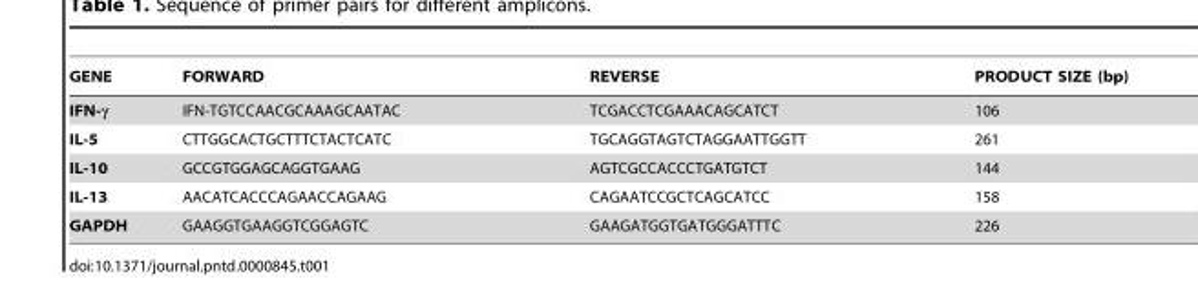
<table><thead><tr><td>GENE</td><td>FORWARD</td><td>REVERSE</td><td>PRODUCT SIZE (bp)</td></tr></thead><tbody><tr><td>IFN-γ</td><td>IFN-TGTCCAACGCAAAGCAATAC</td><td>TCGACCTCGAAACAGCATCT</td><td>106</td></tr><tr><td>IL-5</td><td>CTTGGCACTGCTTTCTACTCATC</td><td>TGCAGGTAGTCTAGGAATTGGTT</td><td>261</td></tr><tr><td>IL-10</td><td>GCCGTGGAGCAGGTGAAG</td><td>AGTCGCCACCCTGATGTCT</td><td>144</td></tr><tr><td>IL-13</td><td>AACATCACCCAGAACCAGAAG</td><td>CAGAATCCGCTCAGCATCC</td><td>158</td></tr><tr><td>GAPDH</td><td>GAAGGTGAAGGTCGGAGTC</td><td>GAAGATGGTGATGGGATTTC</td><td>226</td></tr></tbody></table>